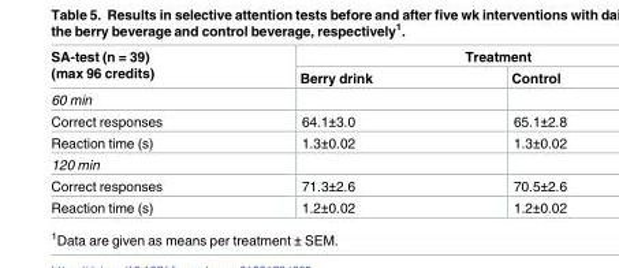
<table><thead><tr><td rowspan="2">SA-test (n = 39) (max 96 credits)</td><td colspan="2">Treatment</td></tr><tr><td>Berry drink</td><td>Control</td></tr></thead><tbody><tr><td colspan="3">60 min</td></tr><tr><td>Correct responses</td><td>64.1±3.0</td><td>65.1±2.8</td></tr><tr><td>Reaction time (s)</td><td>1.3±0.02</td><td>1.3±0.02</td></tr><tr><td colspan="3">120 min</td></tr><tr><td>Correct responses</td><td>71.3±2.6</td><td>70.5±2.6</td></tr><tr><td>Reaction time (s)</td><td>1.2±0.02</td><td>1.2±0.02</td></tr></tbody></table>